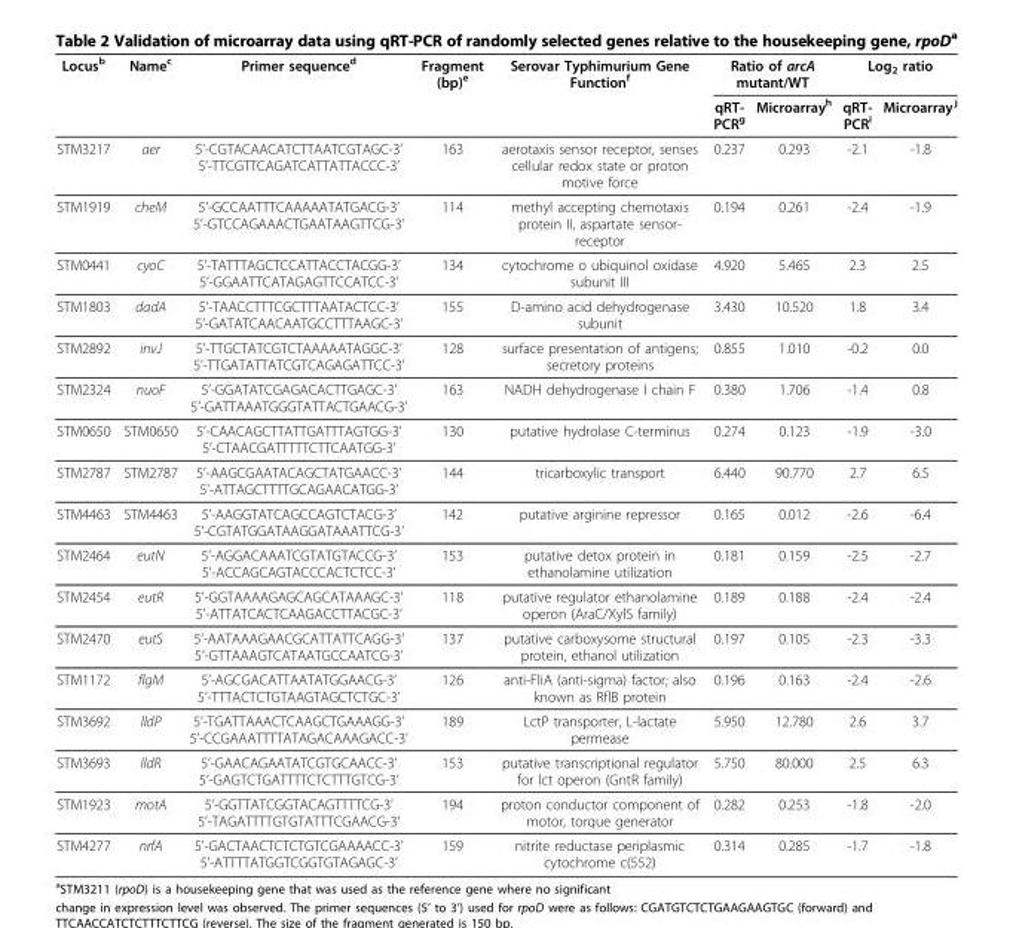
<table><thead><tr><td rowspan="2">Locus<sup>b</sup></td><td rowspan="2">Name<sup>c</sup></td><td rowspan="2">Primer sequence<sup>d</sup></td><td rowspan="2">Fragment (bp)<sup>e</sup></td><td rowspan="2">Serovar Typhimurium Gene Function<sup>f</sup></td><td colspan="2">Ratio of arcA mutant/WT</td><td colspan="2">Log<sub>2</sub> ratio</td></tr><tr><td>qRT- PCR<sup>g</sup></td><td>Microarray<sup>h</sup></td><td>qRT- PCR<sup>i</sup></td><td>Microarray <sup>j</sup></td></tr></thead><tbody><tr><td>STM3217</td><td>aer</td><td>5’-CGTACAACATCTTAATCGTAGC-3’ 5’-TTCGTTCAGATCATTATTACCC-3’</td><td>163</td><td>aerotaxis sensor receptor, senses cellular redox state or proton motive force</td><td>0.237</td><td>0.293</td><td>-2.1</td><td>-1.8</td></tr><tr><td>STM1919</td><td>cheM</td><td>5’-GCCAATTTCAAAAATATGACG-3’ 5’-GTCCAGAAACTGAATAAGTTCG-3’</td><td>114</td><td>methyl accepting chemotaxis protein II, aspartate sensor- receptor</td><td>0.194</td><td>0.261</td><td>-2.4</td><td>-1.9</td></tr><tr><td>STM0441</td><td>cyoC</td><td>5’-TATTTAGCTCCATTACCTACGG-3’ 5’-GGAATTCATAGAGTTCCATCC-3’</td><td>134</td><td>cytochrome o ubiquinol oxidase subunit III</td><td>4.920</td><td>5.465</td><td>2.3</td><td>2.5</td></tr><tr><td>STM1803</td><td>dadA</td><td>5’-TAACCTTTCGCTTTAATACTCC-3’ 5’-GATATCAACAATGCCTTTAAGC-3’</td><td>155</td><td>D-amino acid dehydrogenase subunit</td><td>3.430</td><td>10.520</td><td>1.8</td><td>3.4</td></tr><tr><td>STM2892</td><td>invJ</td><td>5’-TTGCTATCGTCTAAAAATAGGC-3’ 5’-TTGATATTATCGTCAGAGATTCC-3’</td><td>128</td><td>surface presentation of antigens; secretory proteins</td><td>0.855</td><td>1.010</td><td>-0.2</td><td>0.0</td></tr><tr><td>STM2324</td><td>nuoF</td><td>5’-GGATATCGAGACACTTGAGC-3’ 5’-GATTAAATGGGTATTACTGAACG-3’</td><td>163</td><td>NADH dehydrogenase I chain F</td><td>0.380</td><td>1.706</td><td>-1.4</td><td>0.8</td></tr><tr><td>STM0650</td><td>STM0650</td><td>5’-CAACAGCTTATTGATTTAGTGG-3’ 5’-CTAACGATTTTTCTTCAATGG-3’</td><td>130</td><td>putative hydrolase C-terminus</td><td>0.274</td><td>0.123</td><td>-1.9</td><td>-3.0</td></tr><tr><td>STM2787</td><td>STM2787</td><td>5’-AAGCGAATACAGCTATGAACC-3’ 5’-ATTAGCTTTTGCAGAACATGG-3’</td><td>144</td><td>tricarboxylic transport</td><td>6.440</td><td>90.770</td><td>2.7</td><td>6.5</td></tr><tr><td>STM4463</td><td>STM4463</td><td>5’-AAGGTATCAGCCAGTCTACG-3’ 5’-CGTATGGATAAGGATAAATTCG-3’</td><td>142</td><td>putative arginine repressor</td><td>0.165</td><td>0.012</td><td>-2.6</td><td>-6.4</td></tr><tr><td>STM2464</td><td>eutN</td><td>5’-AGGACAAATCGTATGTACCG-3’ 5’-ACCAGCAGTACCCACTCTCC-3’</td><td>153</td><td>putative detox protein in ethanolamine utilization</td><td>0.181</td><td>0.159</td><td>-2.5</td><td>-2.7</td></tr><tr><td>STM2454</td><td>eutR</td><td>5’-GGTAAAAGAGCAGCATAAAGC-3’ 5’-ATTATCACTCAAGACCTTACGC-3’</td><td>118</td><td>putative regulator ethanolamine operon (AraC/XylS family)</td><td>0.189</td><td>0.188</td><td>-2.4</td><td>-2.4</td></tr><tr><td>STM2470</td><td>eutS</td><td>5’-AATAAAGAACGCATTATTCAGG-3’ 5’-GTTAAAGTCATAATGCCAATCG-3’</td><td>137</td><td>putative carboxysome structural protein, ethanol utilization</td><td>0.197</td><td>0.105</td><td>-2.3</td><td>-3.3</td></tr><tr><td>STM1172</td><td>flgM</td><td>5’-AGCGACATTAATATGGAACG-3’ 5’-TTTACTCTGTAAGTAGCTCTGC-3’</td><td>126</td><td>anti-FliA (anti-sigma) factor; also known as RflB protein</td><td>0.196</td><td>0.163</td><td>-2.4</td><td>-2.6</td></tr><tr><td>STM3692</td><td>lldP</td><td>5’-TGATTAAACTCAAGCTGAAAGG-3’ 5’-CCGAAATTTTATAGACAAAGACC-3’</td><td>189</td><td>LctP transporter, L-lactate permease</td><td>5.950</td><td>12.780</td><td>2.6</td><td>3.7</td></tr><tr><td>STM3693</td><td>lldR</td><td>5’-GAACAGAATATCGTGCAACC-3’ 5’-GAGTCTGATTTTCTCTTTGTCG-3’</td><td>153</td><td>putative transcriptional regulator for lct operon (GntR family)</td><td>5.750</td><td>80.000</td><td>2.5</td><td>6.3</td></tr><tr><td>STM1923</td><td>motA</td><td>5’-GGTTATCGGTACAGTTTTCG-3’ 5’-TAGATTTTGTGTATTTCGAACG-3’</td><td>194</td><td>proton conductor component of motor, torque generator</td><td>0.282</td><td>0.253</td><td>-1.8</td><td>-2.0</td></tr><tr><td>STM4277</td><td>nrfA</td><td>5’-GACTAACTCTCTGTCGAAAACC-3’ 5’-ATTTTATGGTCGGTGTAGAGC-3’</td><td>159</td><td>nitrite reductase periplasmic cytochrome c(552)</td><td>0.314</td><td>0.285</td><td>-1.7</td><td>-1.8</td></tr></tbody></table>